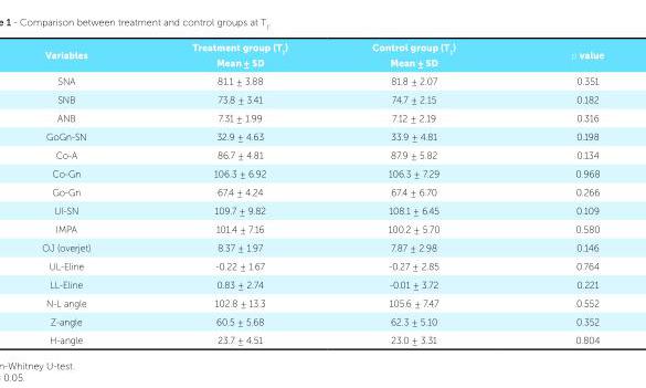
<table><tbody><tr><td>Variables</td><td>Treatment group (T<sub>1</sub>) Mean ± SD</td><td>Control group (T<sub>1</sub>) Mean ± SD</td><td>p value</td></tr><tr><td>SNA</td><td>81.1 ± 3.88</td><td>81.8 ± 2.07</td><td>0.351</td></tr><tr><td>SNB</td><td>73.8 ± 3.41</td><td>74.7 ± 2.15</td><td>0.182</td></tr><tr><td>ANB</td><td>7.31 ± 1.99</td><td>7.12 ± 2.19</td><td>0.316</td></tr><tr><td>GoGn-SN</td><td>32.9 ± 4.63</td><td>33.9 ± 4.81</td><td>0.198</td></tr><tr><td>Co-A</td><td>86.7 ± 4.81</td><td>87.9 ± 5.82</td><td>0.134</td></tr><tr><td>Co-Gn</td><td>106.3 ± 6.92</td><td>106.3 ± 7.29</td><td>0.968</td></tr><tr><td>Go-Gn</td><td>67.4 ± 4.24</td><td>67.4 ± 6.70</td><td>0.266</td></tr><tr><td>UI-SN</td><td>109.7 ± 9.82</td><td>108.1 ± 6.45</td><td>0.109</td></tr><tr><td>IMPA</td><td>101.4 ± 7.16</td><td>100.2 ± 5.70</td><td>0.580</td></tr><tr><td>OJ (overjet)</td><td>8.37 ± 1.97</td><td>7.87 ± 2.98</td><td>0.146</td></tr><tr><td>UL-Eline</td><td>-0.22 ± 1.67</td><td>-0.27 ± 2.85</td><td>0.764</td></tr><tr><td>LL-Eline</td><td>0.83 ± 2.74</td><td>-0.01 ± 3.72</td><td>0.221</td></tr><tr><td>N-L angle</td><td>102.8 ± 13.3</td><td>105.6 ± 7.47</td><td>0.552</td></tr><tr><td>Z-angle</td><td>60.5 ± 5.68</td><td>62.3 ± 5.10</td><td>0.352</td></tr><tr><td>H-angle</td><td>23.7 ± 4.51</td><td>23.0 ± 3.31</td><td>0.804</td></tr></tbody></table>